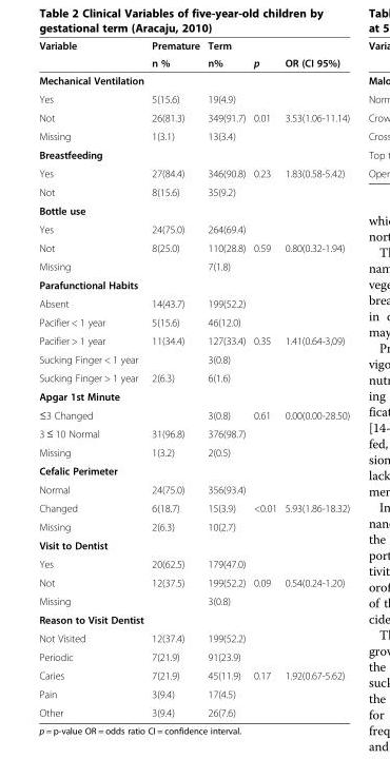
<table><thead><tr><td rowspan="2">Variable</td><td rowspan="2">Premature n %</td><td rowspan="2">Term n%</td><td rowspan="2">p</td><td rowspan="2">OR (CI 95%)</td></tr><tr></tr></thead><tbody><tr><td colspan="5">Mechanical Ventilation</td></tr><tr><td>Yes</td><td>5(15.6)</td><td>19(4.9)</td><td></td><td></td></tr><tr><td>Not</td><td>26(81.3)</td><td>349(91.7)</td><td>0.01</td><td>3.53(1.06-11.14)</td></tr><tr><td>Missing</td><td>1(3.1)</td><td>13(3.4)</td><td></td><td></td></tr><tr><td colspan="5">Breastfeeding</td></tr><tr><td>Yes</td><td>27(84.4)</td><td>346(90.8)</td><td>0.23</td><td>1.83(0.58-5.42)</td></tr><tr><td>Not</td><td>8(15.6)</td><td>35(9.2)</td><td></td><td></td></tr><tr><td colspan="5">Bottle use</td></tr><tr><td>Yes</td><td>24(75.0)</td><td>264(69.4)</td><td></td><td></td></tr><tr><td>Not</td><td>8(25.0)</td><td>110(28.8)</td><td>0.59</td><td>0.80(0.32-1.94)</td></tr><tr><td>Missing</td><td></td><td>7(1.8)</td><td></td><td></td></tr><tr><td colspan="5">Parafunctional Habits</td></tr><tr><td>Absent</td><td>14(43.7)</td><td>199(52.2)</td><td></td><td></td></tr><tr><td>Pacifier &lt; 1 year</td><td>5(15.6)</td><td>46(12.0)</td><td></td><td></td></tr><tr><td>Pacifier &gt; 1 year</td><td>11(34.4)</td><td>127(33.4)</td><td>0.35</td><td>1.41(0.64-3,09)</td></tr><tr><td>Sucking Finger &lt; 1 year</td><td></td><td>3(0.8)</td><td></td><td></td></tr><tr><td>Sucking Finger &gt; 1 year</td><td>2(6.3)</td><td>6(1.6)</td><td></td><td></td></tr><tr><td colspan="5">Apgar 1st Minute</td></tr><tr><td>≤3 Changed</td><td></td><td>3(0.8)</td><td>0.61</td><td>0.00(0.00-28.50)</td></tr><tr><td>3 ≤ 10 Normal</td><td>31(96.8)</td><td>376(98.7)</td><td></td><td></td></tr><tr><td>Missing</td><td>1(3.2)</td><td>2(0.5)</td><td></td><td></td></tr><tr><td colspan="5">Cefalic Perimeter</td></tr><tr><td>Normal</td><td>24(75.0)</td><td>356(93.4)</td><td></td><td></td></tr><tr><td>Changed</td><td>6(18.7)</td><td>15(3.9)</td><td>&lt;0.01</td><td>5.93(1.86-18.32)</td></tr><tr><td>Missing</td><td>2(6.3)</td><td>10(2.7)</td><td></td><td></td></tr><tr><td colspan="5">Visit to Dentist</td></tr><tr><td>Yes</td><td>20(62.5)</td><td>179(47.0)</td><td></td><td></td></tr><tr><td>Not</td><td>12(37.5)</td><td>199(52.2)</td><td>0.09</td><td>0.54(0.24-1.20)</td></tr><tr><td>Missing</td><td></td><td>3(0.8)</td><td></td><td></td></tr><tr><td colspan="5">Reason to Visit Dentist</td></tr><tr><td>Not Visited</td><td>12(37.4)</td><td>199(52.2)</td><td></td><td></td></tr><tr><td>Periodic</td><td>7(21.9)</td><td>91(23.9)</td><td></td><td></td></tr><tr><td>Caries</td><td>7(21.9)</td><td>45(11.9)</td><td>0.17</td><td>1.92(0.67-5.62)</td></tr><tr><td>Pain</td><td>3(9.4)</td><td>17(4.5)</td><td></td><td></td></tr><tr><td>Other</td><td>3(9.4)</td><td>26(7.6)</td><td></td><td></td></tr></tbody></table>